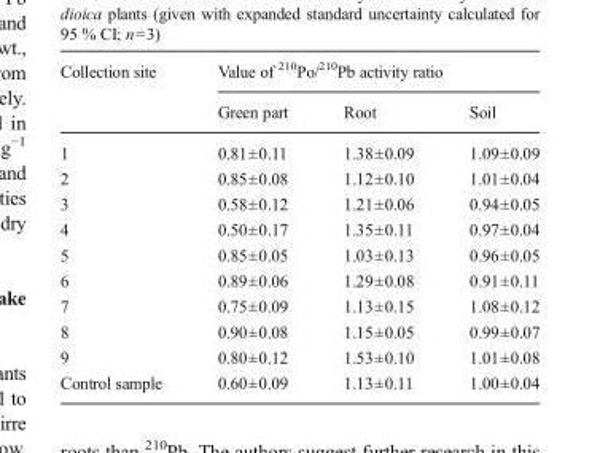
<table><thead><tr><td rowspan="2">Collection site</td><td colspan="3">Value of <sup>210</sup>Po/<sup>210</sup>Pb activity ratio</td></tr><tr><td>Green part</td><td>Root</td><td>Soil</td></tr></thead><tbody><tr><td>1</td><td>0.81±0.11</td><td>1.38±0.09</td><td>1.09±0.09</td></tr><tr><td>2</td><td>0.85±0.08</td><td>1.12±0.10</td><td>1.01±0.04</td></tr><tr><td>3</td><td>0.58±0.12</td><td>1.21±0.06</td><td>0.94±0.05</td></tr><tr><td>4</td><td>0.50±0.17</td><td>1.35±0.11</td><td>0.97±0.04</td></tr><tr><td>5</td><td>0.85±0.05</td><td>1.03±0.13</td><td>0.96±0.05</td></tr><tr><td>6</td><td>0.89±0.06</td><td>1.29±0.08</td><td>0.91±0.11</td></tr><tr><td>7</td><td>0.75±0.09</td><td>1.13±0.15</td><td>1.08±0.12</td></tr><tr><td>8</td><td>0.90±0.08</td><td>1.15±0.05</td><td>0.99±0.07</td></tr><tr><td>9</td><td>0.80±0.12</td><td>1.53±0.10</td><td>1.01±0.08</td></tr><tr><td>Control sample</td><td>0.60±0.09</td><td>1.13±0.11</td><td>1.00±0.04</td></tr></tbody></table>